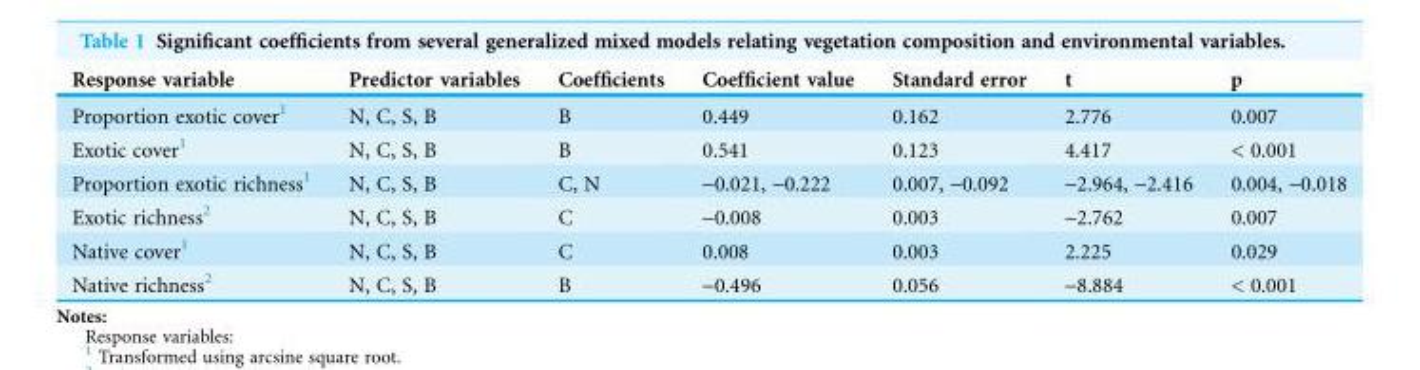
<table><thead><tr><td>Response variable</td><td>Predictor variables</td><td>Coefficients</td><td>Coefficient value</td><td>Standard error</td><td>t</td><td>p</td></tr></thead><tbody><tr><td>Proportion exotic cover<sup>1</sup></td><td>N, C, S, B</td><td>B</td><td>0.449</td><td>0.162</td><td>2.776</td><td>0.007</td></tr><tr><td>Exotic cover<sup>1</sup></td><td>N, C, S, B</td><td>B</td><td>0.541</td><td>0.123</td><td>4.417</td><td>&lt; 0.001</td></tr><tr><td>Proportion exotic richness<sup>1</sup></td><td>N, C, S, B</td><td>C, N</td><td>-0.021, -0.222</td><td>0.007, -0.092</td><td>-2.964, -2.416</td><td>0.004, -0.018</td></tr><tr><td>Exotic richness<sup>2</sup></td><td>N, C, S, B</td><td>C</td><td>-0.008</td><td>0.003</td><td>-2.762</td><td>0.007</td></tr><tr><td>Native cover<sup>1</sup></td><td>N, C, S, B</td><td>C</td><td>0.008</td><td>0.003</td><td>2.225</td><td>0.029</td></tr><tr><td>Native richness<sup>2</sup></td><td>N, C, S, B</td><td>B</td><td>-0.496</td><td>0.056</td><td>-8.884</td><td>&lt; 0.001</td></tr></tbody></table>